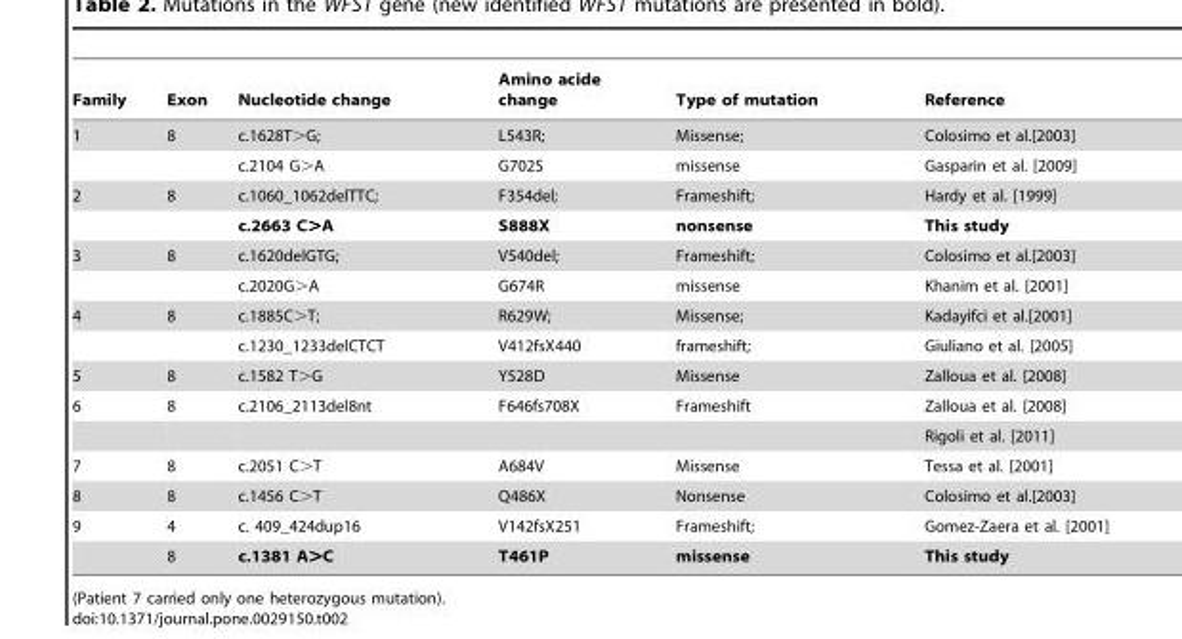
<table><thead><tr><td>Family</td><td>Exon</td><td>Nucleotide change</td><td>Amino acide change</td><td>Type of mutation</td><td>Reference</td></tr></thead><tbody><tr><td rowspan="2">1</td><td>8</td><td>c.1628T&gt;G;</td><td>L543R;</td><td>Missense;</td><td>Colosimo et al.[2003]</td></tr><tr><td></td><td>c.2104 G&gt;A</td><td>G702S</td><td>missense</td><td>Gasparin et al. [2009]</td></tr><tr><td rowspan="2">2</td><td>8</td><td>c.1060_1062delTTC;</td><td>F354del;</td><td>Frameshift;</td><td>Hardy et al. [1999]</td></tr><tr><td></td><td>c.2663 C&gt;A</td><td>S888X</td><td>nonsense</td><td>This study</td></tr><tr><td rowspan="2">3</td><td>8</td><td>c.1620delGTG;</td><td>V540del;</td><td>Frameshift;</td><td>Colosimo et al.[2003]</td></tr><tr><td></td><td>c.2020G&gt;A</td><td>G674R</td><td>missense</td><td>Khanim et al. [2001]</td></tr><tr><td rowspan="2">4</td><td>8</td><td>c.1885C&gt;T;</td><td>R629W;</td><td>Missense;</td><td>Kadayifci et al.[2001]</td></tr><tr><td></td><td>c.1230_1233delCTCT</td><td>V412fsX440</td><td>frameshift;</td><td>Giuliano et al. [2005]</td></tr><tr><td>5</td><td>8</td><td>c.1582 T&gt;G</td><td>Y528D</td><td>Missense</td><td>Zalloua et al. [2008]</td></tr><tr><td rowspan="2">6</td><td>8</td><td>c.2106_2113del8nt</td><td>F646fs708X</td><td>Frameshift</td><td>Zalloua et al. [2008]</td></tr><tr><td></td><td></td><td></td><td></td><td>Rigoli et al. [2011]</td></tr><tr><td>7</td><td>8</td><td>c.2051 C&gt;T</td><td>A684V</td><td>Missense</td><td>Tessa et al. [2001]</td></tr><tr><td>8</td><td>8</td><td>c.1456 C&gt;T</td><td>Q486X</td><td>Nonsense</td><td>Colosimo et al.[2003]</td></tr><tr><td rowspan="2">9</td><td>4</td><td>c. 409_424dup16</td><td>V142fsX251</td><td>Frameshift;</td><td>Gomez-Zaera et al. [2001]</td></tr><tr><td>8</td><td>c.1381 A&gt;C</td><td>T461P</td><td>missense</td><td>This study</td></tr></tbody></table>